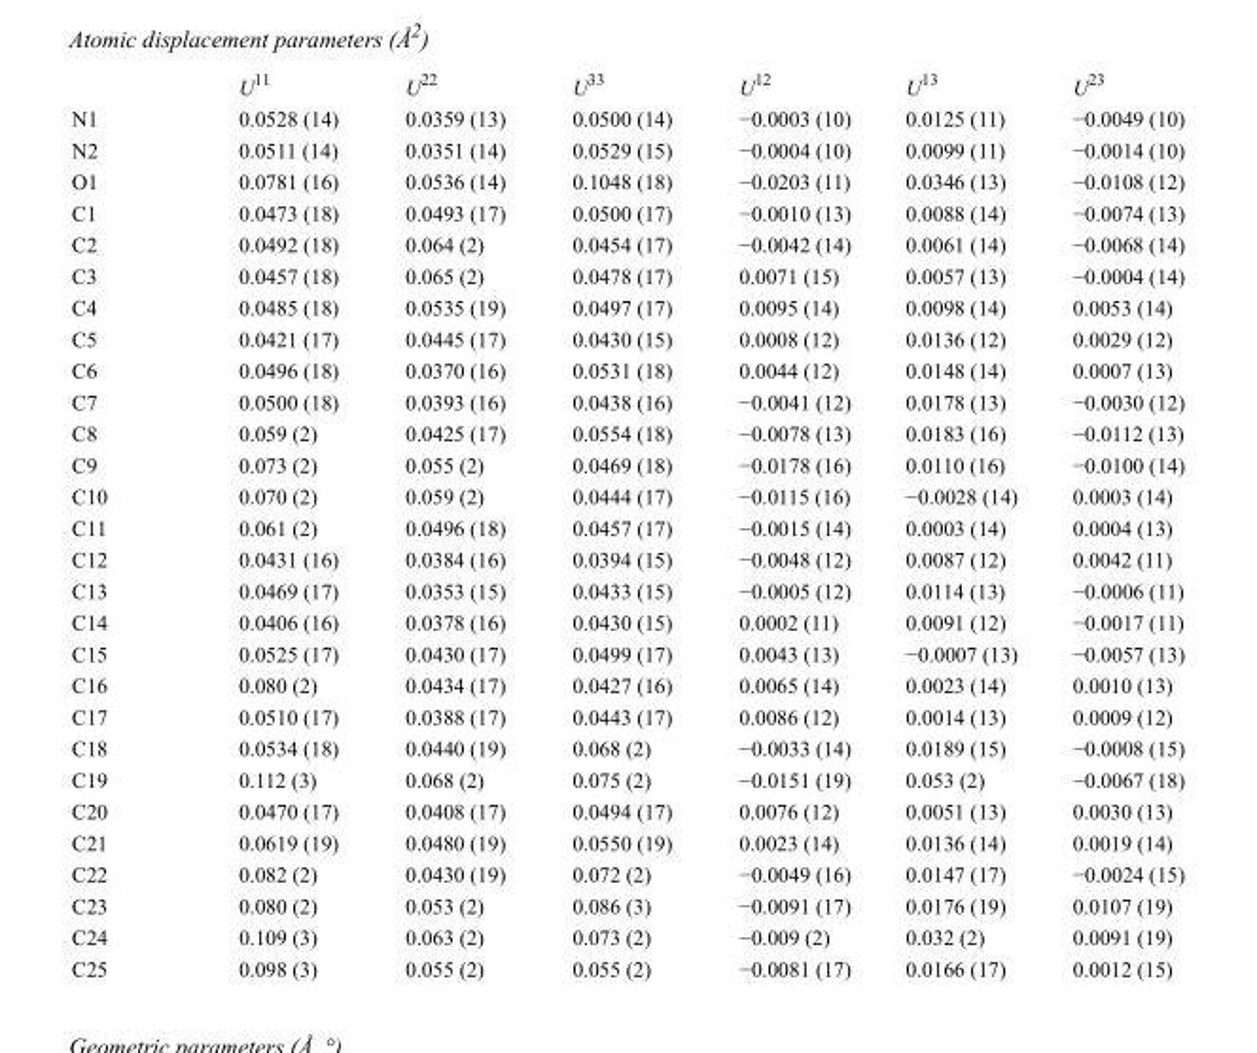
<table><thead><tr><td></td><td>U<sup>11</sup></td><td>U<sup>22</sup></td><td>U<sup>33</sup></td><td>U<sup>12</sup></td><td>U<sup>13</sup></td><td>U<sup>23</sup></td></tr></thead><tbody><tr><td>N1</td><td>0.0528 (14)</td><td>0.0359 (13)</td><td>0.0500 (14)</td><td>−0.0003 (10)</td><td>0.0125 (11)</td><td>−0.0049 (10)</td></tr><tr><td>N2</td><td>0.0511 (14)</td><td>0.0351 (14)</td><td>0.0529 (15)</td><td>−0.0004 (10)</td><td>0.0099 (11)</td><td>−0.0014 (10)</td></tr><tr><td>O1</td><td>0.0781 (16)</td><td>0.0536 (14)</td><td>0.1048 (18)</td><td>−0.0203 (11)</td><td>0.0346 (13)</td><td>−0.0108 (12)</td></tr><tr><td>C1</td><td>0.0473 (18)</td><td>0.0493 (17)</td><td>0.0500 (17)</td><td>−0.0010 (13)</td><td>0.0088 (14)</td><td>−0.0074 (13)</td></tr><tr><td>C2</td><td>0.0492 (18)</td><td>0.064 (2)</td><td>0.0454 (17)</td><td>−0.0042 (14)</td><td>0.0061 (14)</td><td>−0.0068 (14)</td></tr><tr><td>C3</td><td>0.0457 (18)</td><td>0.065 (2)</td><td>0.0478 (17)</td><td>0.0071 (15)</td><td>0.0057 (13)</td><td>−0.0004 (14)</td></tr><tr><td>C4</td><td>0.0485 (18)</td><td>0.0535 (19)</td><td>0.0497 (17)</td><td>0.0095 (14)</td><td>0.0098 (14)</td><td>0.0053 (14)</td></tr><tr><td>C5</td><td>0.0421 (17)</td><td>0.0445 (17)</td><td>0.0430 (15)</td><td>0.0008 (12)</td><td>0.0136 (12)</td><td>0.0029 (12)</td></tr><tr><td>C6</td><td>0.0496 (18)</td><td>0.0370 (16)</td><td>0.0531 (18)</td><td>0.0044 (12)</td><td>0.0148 (14)</td><td>0.0007 (13)</td></tr><tr><td>C7</td><td>0.0500 (18)</td><td>0.0393 (16)</td><td>0.0438 (16)</td><td>−0.0041 (12)</td><td>0.0178 (13)</td><td>−0.0030 (12)</td></tr><tr><td>C8</td><td>0.059 (2)</td><td>0.0425 (17)</td><td>0.0554 (18)</td><td>−0.0078 (13)</td><td>0.0183 (16)</td><td>−0.0112 (13)</td></tr><tr><td>C9</td><td>0.073 (2)</td><td>0.055 (2)</td><td>0.0469 (18)</td><td>−0.0178 (16)</td><td>0.0110 (16)</td><td>−0.0100 (14)</td></tr><tr><td>C10</td><td>0.070 (2)</td><td>0.059 (2)</td><td>0.0444 (17)</td><td>−0.0115 (16)</td><td>−0.0028 (14)</td><td>0.0003 (14)</td></tr><tr><td>C11</td><td>0.061 (2)</td><td>0.0496 (18)</td><td>0.0457 (17)</td><td>−0.0015 (14)</td><td>0.0003 (14)</td><td>0.0004 (13)</td></tr><tr><td>C12</td><td>0.0431 (16)</td><td>0.0384 (16)</td><td>0.0394 (15)</td><td>−0.0048 (12)</td><td>0.0087 (12)</td><td>0.0042 (11)</td></tr><tr><td>C13</td><td>0.0469 (17)</td><td>0.0353 (15)</td><td>0.0433 (15)</td><td>−0.0005 (12)</td><td>0.0114 (13)</td><td>−0.0006 (11)</td></tr><tr><td>C14</td><td>0.0406 (16)</td><td>0.0378 (16)</td><td>0.0430 (15)</td><td>0.0002 (11)</td><td>0.0091 (12)</td><td>−0.0017 (11)</td></tr><tr><td>C15</td><td>0.0525 (17)</td><td>0.0430 (17)</td><td>0.0499 (17)</td><td>0.0043 (13)</td><td>−0.0007 (13)</td><td>−0.0057 (13)</td></tr><tr><td>C16</td><td>0.080 (2)</td><td>0.0434 (17)</td><td>0.0427 (16)</td><td>0.0065 (14)</td><td>0.0023 (14)</td><td>0.0010 (13)</td></tr><tr><td>C17</td><td>0.0510 (17)</td><td>0.0388 (17)</td><td>0.0443 (17)</td><td>0.0086 (12)</td><td>0.0014 (13)</td><td>0.0009 (12)</td></tr><tr><td>C18</td><td>0.0534 (18)</td><td>0.0440 (19)</td><td>0.068 (2)</td><td>−0.0033 (14)</td><td>0.0189 (15)</td><td>−0.0008 (15)</td></tr><tr><td>C19</td><td>0.112 (3)</td><td>0.068 (2)</td><td>0.075 (2)</td><td>−0.0151 (19)</td><td>0.053 (2)</td><td>−0.0067 (18)</td></tr><tr><td>C20</td><td>0.0470 (17)</td><td>0.0408 (17)</td><td>0.0494 (17)</td><td>0.0076 (12)</td><td>0.0051 (13)</td><td>0.0030 (13)</td></tr><tr><td>C21</td><td>0.0619 (19)</td><td>0.0480 (19)</td><td>0.0550 (19)</td><td>0.0023 (14)</td><td>0.0136 (14)</td><td>0.0019 (14)</td></tr><tr><td>C22</td><td>0.082 (2)</td><td>0.0430 (19)</td><td>0.072 (2)</td><td>−0.0049 (16)</td><td>0.0147 (17)</td><td>−0.0024 (15)</td></tr><tr><td>C23</td><td>0.080 (2)</td><td>0.053 (2)</td><td>0.086 (3)</td><td>−0.0091 (17)</td><td>0.0176 (19)</td><td>0.0107 (19)</td></tr><tr><td>C24</td><td>0.109 (3)</td><td>0.063 (2)</td><td>0.073 (2)</td><td>−0.009 (2)</td><td>0.032 (2)</td><td>0.0091 (19)</td></tr><tr><td>C25</td><td>0.098 (3)</td><td>0.055 (2)</td><td>0.055 (2)</td><td>−0.0081 (17)</td><td>0.0166 (17)</td><td>0.0012 (15)</td></tr></tbody></table>